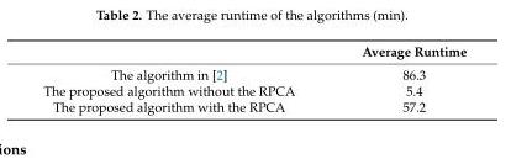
<table><thead><tr><td></td><td>Average Runtime</td></tr></thead><tbody><tr><td>The algorithm in [2]</td><td>86.3</td></tr><tr><td>The proposed algorithm without the RPCA</td><td>5.4</td></tr><tr><td>The proposed algorithm with the RPCA</td><td>57.2</td></tr></tbody></table>